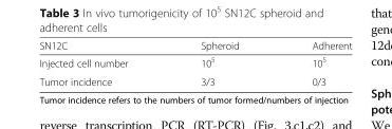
<table><thead><tr><td>SN12C</td><td>Spheroid</td><td>Adherent</td></tr></thead><tbody><tr><td>Injected cell number</td><td>10<sup>5</sup></td><td>10<sup>5</sup></td></tr><tr><td>Tumor incidence</td><td>3/3</td><td>0/3</td></tr></tbody></table>